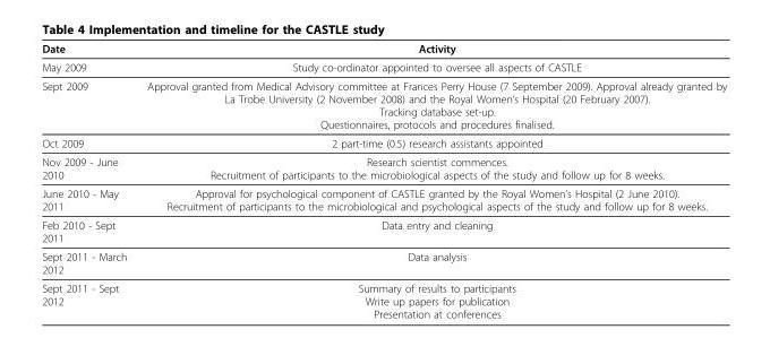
<table><thead><tr><td>Date</td><td>Activity</td></tr></thead><tbody><tr><td>May 2009</td><td>Study co-ordinator appointed to oversee all aspects of CASTLE</td></tr><tr><td>Sept 2009</td><td>Approval granted from Medical Advisory committee at Frances Perry House (7 September 2009). Approval already granted by La Trobe University (2 November 2008) and the Royal Women’s Hospital (20 February 2007). Tracking database set-up. Questionnaires, protocols and procedures finalised.</td></tr><tr><td>Oct 2009</td><td>2 part-time (0.5) research assistants appointed</td></tr><tr><td>Nov 2009 - June 2010</td><td>Research scientist commences. Recruitment of participants to the microbiological aspects of the study and follow up for 8 weeks.</td></tr><tr><td>June 2010 - May 2011</td><td>Approval for psychological component of CASTLE granted by the Royal Women’s Hospital (2 June 2010). Recruitment of participants to the microbiological and psychological aspects of the study and follow up for 8 weeks.</td></tr><tr><td>Feb 2010 - Sept 2011</td><td>Data entry and cleaning</td></tr><tr><td>Sept 2011 - March 2012</td><td>Data analysis</td></tr><tr><td>Sept 2011 - Sept 2012</td><td>Summary of results to participants Write up papers for publication Presentation at conferences</td></tr></tbody></table>